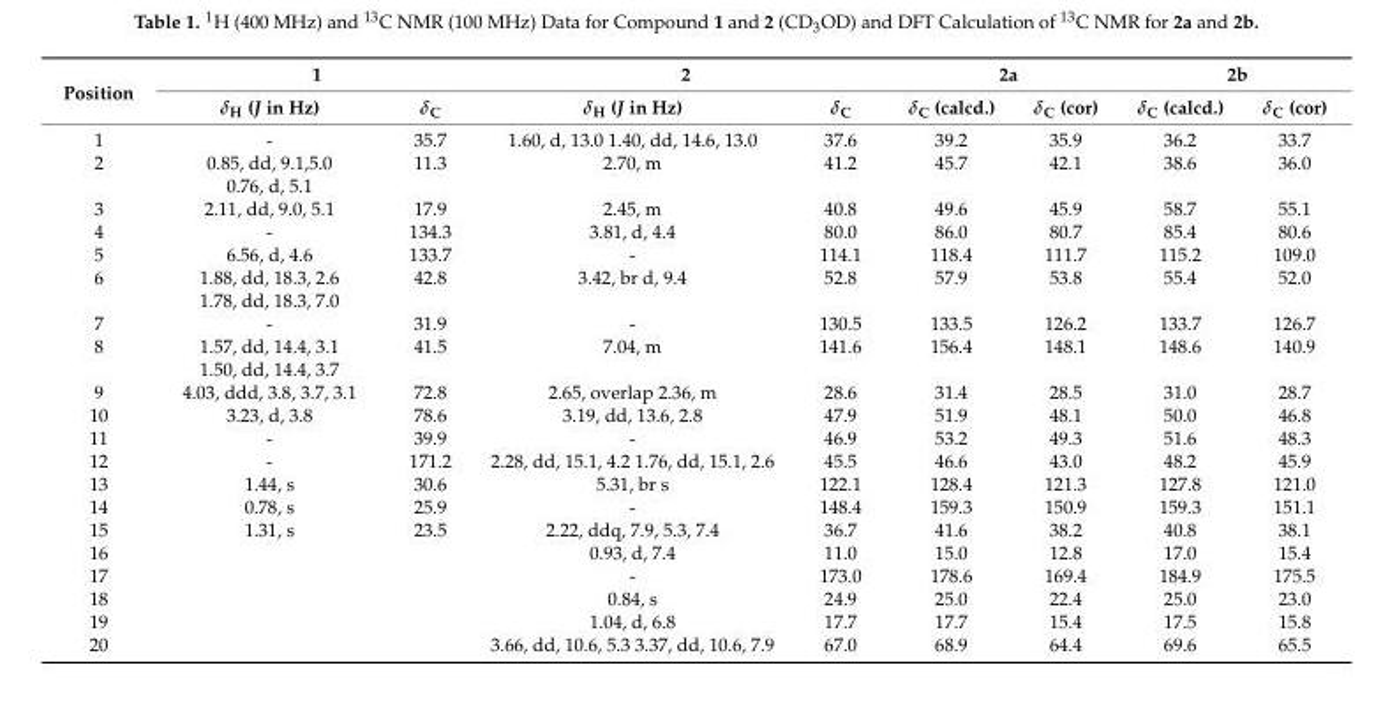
<table><thead><tr><td rowspan="2">Position</td><td colspan="2">1</td><td colspan="2">2</td><td colspan="2">2a</td><td colspan="2">2b</td></tr><tr><td>δ<sub>H</sub> (J in Hz)</td><td>δ<sub>C</sub></td><td>δ<sub>H</sub> (J in Hz)</td><td>δ<sub>C</sub></td><td>δ<sub>C</sub> (calcd.)</td><td>δ<sub>C</sub> (cor)</td><td>δ<sub>C</sub> (calcd.)</td><td>δ<sub>C</sub> (cor)</td></tr></thead><tbody><tr><td>1</td><td>-</td><td>35.7</td><td>1.60, d, 13.0 1.40, dd, 14.6, 13.0</td><td>37.6</td><td>39.2</td><td>35.9</td><td>36.2</td><td>33.7</td></tr><tr><td rowspan="2">2</td><td>0.85, dd, 9.1,5.0</td><td>11.3</td><td>2.70, m</td><td>41.2</td><td>45.7</td><td>42.1</td><td>38.6</td><td>36.0</td></tr><tr><td>0.76, d, 5.1</td><td></td><td></td><td></td><td></td><td></td><td></td><td></td></tr><tr><td>3</td><td>2.11, dd, 9.0, 5.1</td><td>17.9</td><td>2.45, m</td><td>40.8</td><td>49.6</td><td>45.9</td><td>58.7</td><td>55.1</td></tr><tr><td>4</td><td>-</td><td>134.3</td><td>3.81, d, 4.4</td><td>80.0</td><td>86.0</td><td>80.7</td><td>85.4</td><td>80.6</td></tr><tr><td>5</td><td>6.56, d, 4.6</td><td>133.7</td><td>-</td><td>114.1</td><td>118.4</td><td>111.7</td><td>115.2</td><td>109.0</td></tr><tr><td rowspan="2">6</td><td>1.88, dd, 18.3, 2.6</td><td>42.8</td><td>3.42, br d, 9.4</td><td>52.8</td><td>57.9</td><td>53.8</td><td>55.4</td><td>52.0</td></tr><tr><td>1.78, dd, 18.3, 7.0</td><td></td><td></td><td></td><td></td><td></td><td></td><td></td></tr><tr><td>7</td><td>-</td><td>31.9</td><td>-</td><td>130.5</td><td>133.5</td><td>126.2</td><td>133.7</td><td>126.7</td></tr><tr><td rowspan="2">8</td><td>1.57, dd, 14.4, 3.1</td><td>41.5</td><td>7.04, m</td><td>141.6</td><td>156.4</td><td>148.1</td><td>148.6</td><td>140.9</td></tr><tr><td>1.50, dd, 14.4, 3.7</td><td></td><td></td><td></td><td></td><td></td><td></td><td></td></tr><tr><td>9</td><td>4.03, ddd, 3.8, 3.7, 3.1</td><td>72.8</td><td>2.65, overlap 2.36, m</td><td>28.6</td><td>31.4</td><td>28.5</td><td>31.0</td><td>28.7</td></tr><tr><td>10</td><td>3.23, d, 3.8</td><td>78.6</td><td>3.19, dd, 13.6, 2.8</td><td>47.9</td><td>51.9</td><td>48.1</td><td>50.0</td><td>46.8</td></tr><tr><td>11</td><td>-</td><td>39.9</td><td>-</td><td>46.9</td><td>53.2</td><td>49.3</td><td>51.6</td><td>48.3</td></tr><tr><td>12</td><td>-</td><td>171.2</td><td>2.28, dd, 15.1, 4.2 1.76, dd, 15.1, 2.6</td><td>45.5</td><td>46.6</td><td>43.0</td><td>48.2</td><td>45.9</td></tr><tr><td>13</td><td>1.44, s</td><td>30.6</td><td>5.31, br s</td><td>122.1</td><td>128.4</td><td>121.3</td><td>127.8</td><td>121.0</td></tr><tr><td>14</td><td>0.78, s</td><td>25.9</td><td>-</td><td>148.4</td><td>159.3</td><td>150.9</td><td>159.3</td><td>151.1</td></tr><tr><td>15</td><td>1.31, s</td><td>23.5</td><td>2.22, ddq, 7.9, 5.3, 7.4</td><td>36.7</td><td>41.6</td><td>38.2</td><td>40.8</td><td>38.1</td></tr><tr><td>16</td><td></td><td></td><td>0.93, d, 7.4</td><td>11.0</td><td>15.0</td><td>12.8</td><td>17.0</td><td>15.4</td></tr><tr><td>17</td><td></td><td></td><td>-</td><td>173.0</td><td>178.6</td><td>169.4</td><td>184.9</td><td>175.5</td></tr><tr><td>18</td><td></td><td></td><td>0.84, s</td><td>24.9</td><td>25.0</td><td>22.4</td><td>25.0</td><td>23.0</td></tr><tr><td>19</td><td></td><td></td><td>1.04, d, 6.8</td><td>17.7</td><td>17.7</td><td>15.4</td><td>17.5</td><td>15.8</td></tr><tr><td>20</td><td></td><td></td><td>3.66, dd, 10.6, 5.3 3.37, dd, 10.6, 7.9</td><td>67.0</td><td>68.9</td><td>64.4</td><td>69.6</td><td>65.5</td></tr></tbody></table>